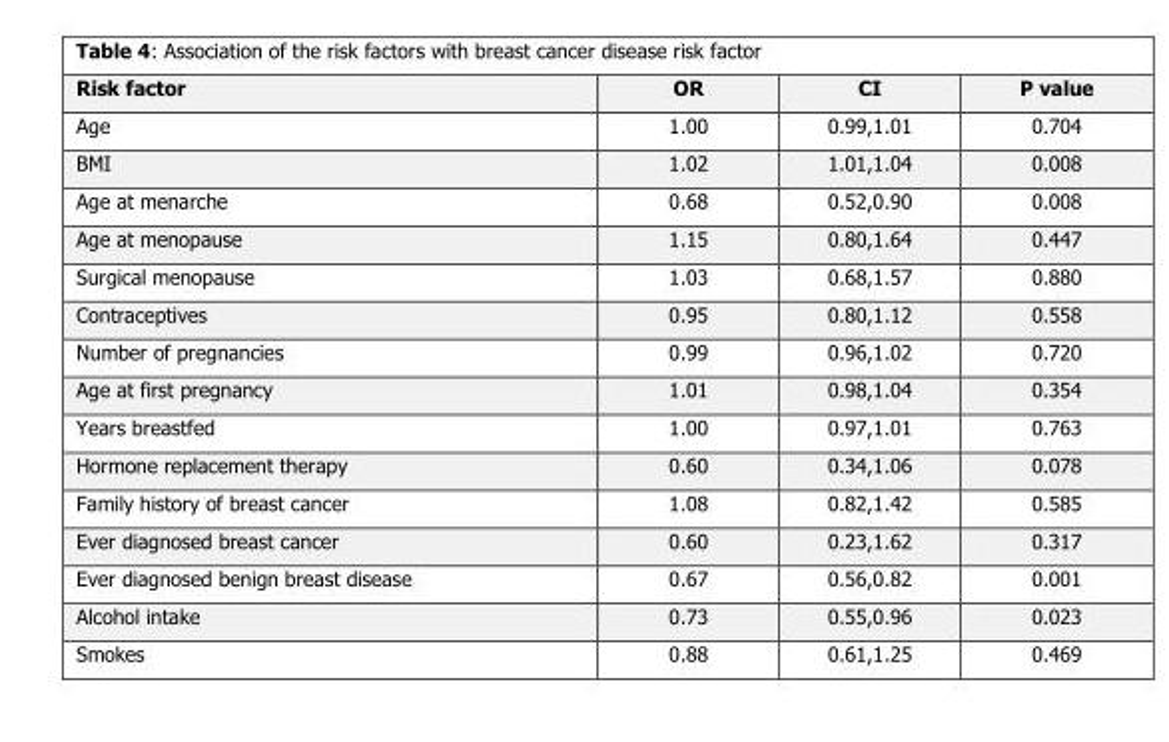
<table><thead><tr><td>Risk factor</td><td>OR</td><td>CI</td><td>P value</td></tr></thead><tbody><tr><td>Age</td><td>1.00</td><td>0.99,1.01</td><td>0.704</td></tr><tr><td>BMI</td><td>1.02</td><td>1.01,1.04</td><td>0.008</td></tr><tr><td>Age at menarche</td><td>0.68</td><td>0.52,0.90</td><td>0.008</td></tr><tr><td>Age at menopause</td><td>1.15</td><td>0.80,1.64</td><td>0.447</td></tr><tr><td>Surgical menopause</td><td>1.03</td><td>0.68,1.57</td><td>0.880</td></tr><tr><td>Contraceptives</td><td>0.95</td><td>0.80,1.12</td><td>0.558</td></tr><tr><td>Number of pregnancies</td><td>0.99</td><td>0.96,1.02</td><td>0.720</td></tr><tr><td>Age at first pregnancy</td><td>1.01</td><td>0.98,1.04</td><td>0.354</td></tr><tr><td>Years breastfed</td><td>1.00</td><td>0.97,1.01</td><td>0.763</td></tr><tr><td>Hormone replacement therapy</td><td>0.60</td><td>0.34,1.06</td><td>0.078</td></tr><tr><td>Family history of breast cancer</td><td>1.08</td><td>0.82,1.42</td><td>0.585</td></tr><tr><td>Ever diagnosed breast cancer</td><td>0.60</td><td>0.23,1.62</td><td>0.317</td></tr><tr><td>Ever diagnosed benign breast disease</td><td>0.67</td><td>0.56,0.82</td><td>0.001</td></tr><tr><td>Alcohol intake</td><td>0.73</td><td>0.55,0.96</td><td>0.023</td></tr><tr><td>Smokes</td><td>0.88</td><td>0.61,1.25</td><td>0.469</td></tr></tbody></table>